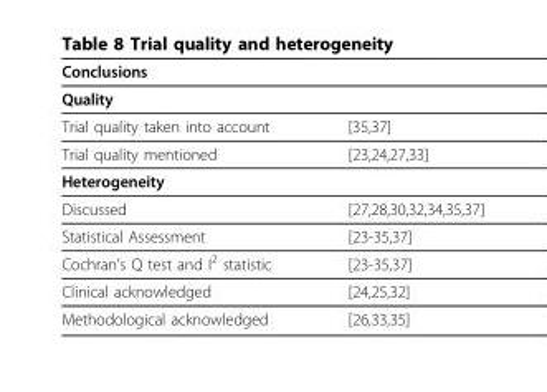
<table><thead><tr><td>Conclusions</td><td></td></tr></thead><tbody><tr><td colspan="2">Quality</td></tr><tr><td>Trial quality taken into account</td><td>[35,37]</td></tr><tr><td>Trial quality mentioned</td><td>[23,24,27,33]</td></tr><tr><td colspan="2">Heterogeneity</td></tr><tr><td>Discussed</td><td>[27,28,30,32,34,35,37]</td></tr><tr><td>Statistical Assessment</td><td>[23-35,37]</td></tr><tr><td>Cochran’s Q test and I<sup>2</sup> statistic</td><td>[23-35,37]</td></tr><tr><td>Clinical acknowledged</td><td>[24,25,32]</td></tr><tr><td>Methodological acknowledged</td><td>[26,33,35]</td></tr></tbody></table>